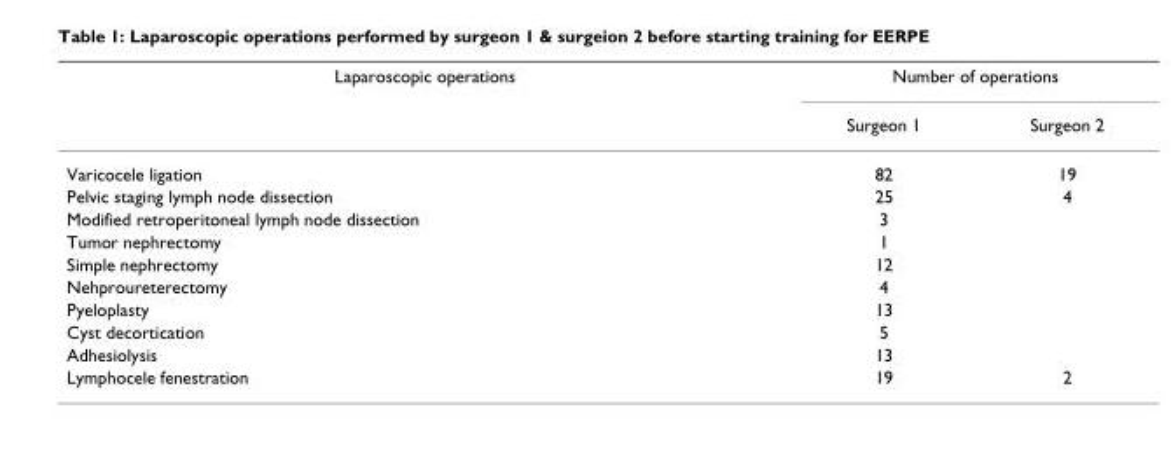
<table><thead><tr><td rowspan="2">Laparoscopic operations</td><td colspan="2">Number of operations</td></tr><tr><td>Surgeon 1</td><td>Surgeon 2</td></tr></thead><tbody><tr><td>Varicocele ligation</td><td>82</td><td>19</td></tr><tr><td>Pelvic staging lymph node dissection</td><td>25</td><td>4</td></tr><tr><td>Modified retroperitoneal lymph node dissection</td><td>3</td><td></td></tr><tr><td>Tumor nephrectomy</td><td>1</td><td></td></tr><tr><td>Simple nephrectomy</td><td>12</td><td></td></tr><tr><td>Nehproureterectomy</td><td>4</td><td></td></tr><tr><td>Pyeloplasty</td><td>13</td><td></td></tr><tr><td>Cyst decortication</td><td>5</td><td></td></tr><tr><td>Adhesiolysis</td><td>13</td><td></td></tr><tr><td>Lymphocele fenestration</td><td>19</td><td>2</td></tr></tbody></table>